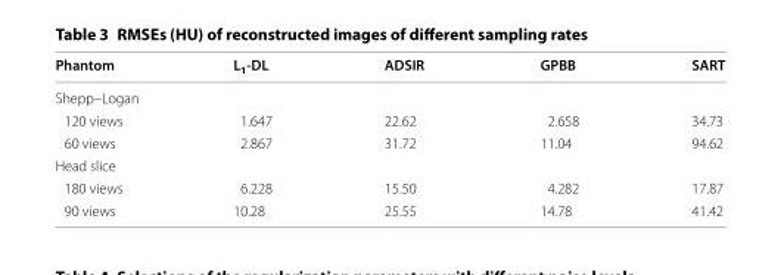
<table><thead><tr><td>Phantom</td><td>L<sub>1</sub>-DL</td><td>ADSIR</td><td>GPBB</td><td>SART</td></tr></thead><tbody><tr><td colspan="5">Shepp–Logan</td></tr><tr><td>120 views</td><td>1.647</td><td>22.62</td><td>2.658</td><td>34.73</td></tr><tr><td>60 views</td><td>2.867</td><td>31.72</td><td>11.04</td><td>94.62</td></tr><tr><td colspan="5">Head slice</td></tr><tr><td>180 views</td><td>6.228</td><td>15.50</td><td>4.282</td><td>17.87</td></tr><tr><td>90 views</td><td>10.28</td><td>25.55</td><td>14.78</td><td>41.42</td></tr></tbody></table>